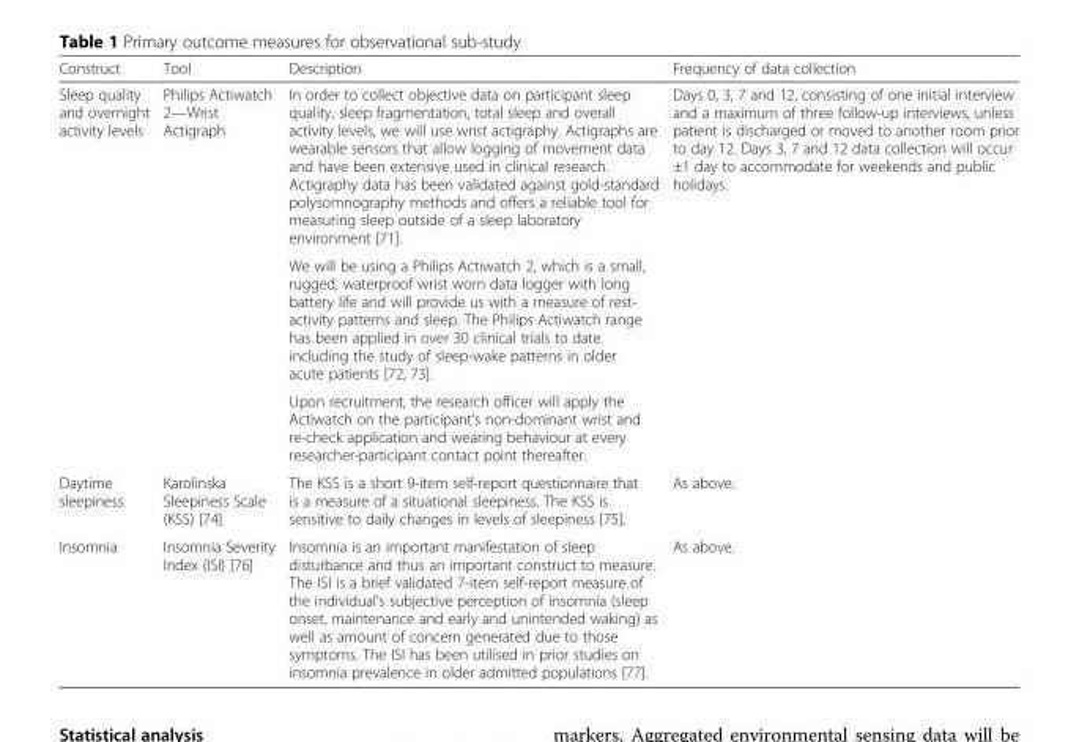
<table><thead><tr><td>Construct</td><td>Tool</td><td>Description</td><td>Frequency of data collection</td></tr></thead><tbody><tr><td rowspan="3">Sleep quality and overnight activity levels</td><td rowspan="3">Philips Actiwatch 2—Wrist Actigraph</td><td>In order to collect objective data on participant sleep quality, sleep fragmentation, total sleep and overall activity levels, we will use wrist actigraphy. Actigraphs are wearable sensors that allow logging of movement data and have been extensive used in clinical research. Actigraphy data has been validated against gold-standard polysomnography methods and offers a reliable tool for measuring sleep outside of a sleep laboratory environment [71].</td><td rowspan="3">Days 0, 3, 7 and 12, consisting of one initial interview and a maximum of three follow-up interviews, unless patient is discharged or moved to another room prior to day 12. Days 3, 7 and 12 data collection will occur ±1 day to accommodate for weekends and public holidays.</td></tr><tr><td>We will be using a Philips Actiwatch 2, which is a small, rugged, waterproof wrist worn data logger with long battery life and will provide us with a measure of rest- activity patterns and sleep. The Philips Actiwatch range has been applied in over 30 clinical trials to date including the study of sleep-wake patterns in older acute patients [72, 73].</td></tr><tr><td>Upon recruitment, the research officer will apply the Actiwatch on the participant’s non-dominant wrist and re-check application and wearing behaviour at every researcher-participant contact point thereafter.</td></tr><tr><td>Daytime sleepiness</td><td>Karolinska Sleepiness Scale (KSS) [74]</td><td>The KSS is a short 9-item self-report questionnaire that is a measure of a situational sleepiness. The KSS is sensitive to daily changes in levels of sleepiness [75].</td><td>As above.</td></tr><tr><td>Insomnia</td><td>Insomnia Severity Index (ISI) [76]</td><td>Insomnia is an important manifestation of sleep disturbance and thus an important construct to measure. The ISI is a brief validated 7-item self-report measure of the individual’s subjective perception of insomnia (sleep onset, maintenance and early and unintended waking) as well as amount of concern generated due to those symptoms. The ISI has been utilised in prior studies on insomnia prevalence in older admitted populations [77].</td><td>As above.</td></tr></tbody></table>